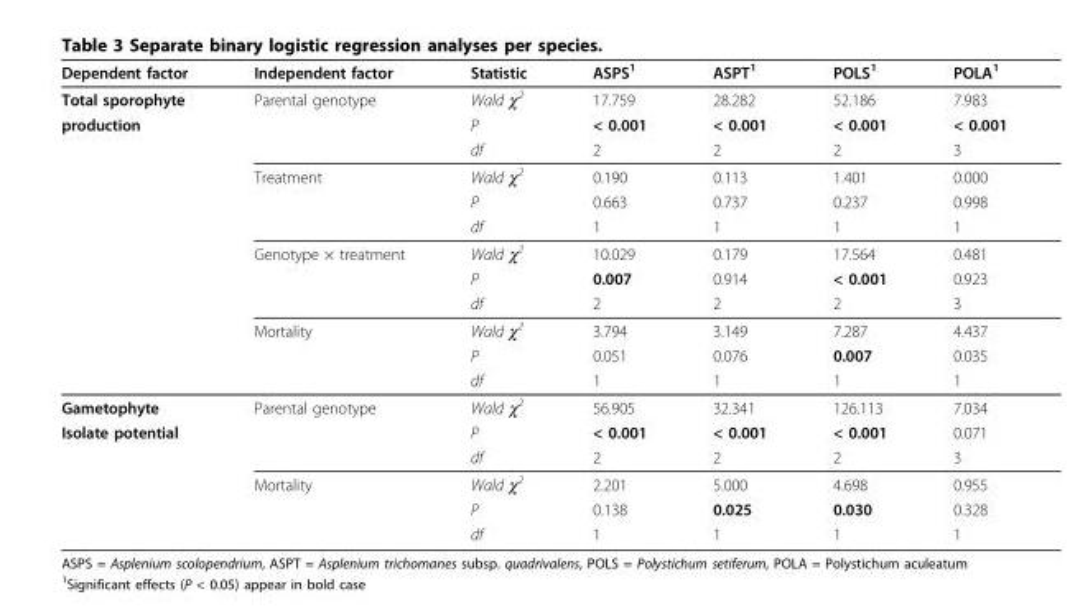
<table><thead><tr><td>Dependent factor</td><td>Independent factor</td><td>Statistic</td><td>ASPS<sup>1</sup></td><td>ASPT<sup>1</sup></td><td>POLS<sup>1</sup></td><td>POLA<sup>1</sup></td></tr></thead><tbody><tr><td>Total sporophyte</td><td>Parental genotype</td><td>Wald χ<sup>2</sup></td><td>17.759</td><td>28.282</td><td>52.186</td><td>7.983</td></tr><tr><td rowspan="11">production</td><td></td><td>P</td><td>&lt; 0.001</td><td>&lt; 0.001</td><td>&lt; 0.001</td><td>&lt; 0.001</td></tr><tr><td></td><td>df</td><td>2</td><td>2</td><td>2</td><td>3</td></tr><tr><td>Treatment</td><td>Wald χ<sup>2</sup></td><td>0.190</td><td>0.113</td><td>1.401</td><td>0.000</td></tr><tr><td></td><td>P</td><td>0.663</td><td>0.737</td><td>0.237</td><td>0.998</td></tr><tr><td></td><td>df</td><td>1</td><td>1</td><td>1</td><td>1</td></tr><tr><td>Genotype × treatment</td><td>Wald χ<sup>2</sup></td><td>10.029</td><td>0.179</td><td>17.564</td><td>0.481</td></tr><tr><td></td><td>P</td><td>0.007</td><td>0.914</td><td>&lt; 0.001</td><td>0.923</td></tr><tr><td></td><td>df</td><td>2</td><td>2</td><td>2</td><td>3</td></tr><tr><td>Mortality</td><td>Wald χ<sup>2</sup></td><td>3.794</td><td>3.149</td><td>7.287</td><td>4.437</td></tr><tr><td></td><td>P</td><td>0.051</td><td>0.076</td><td>0.007</td><td>0.035</td></tr><tr><td></td><td>df</td><td>1</td><td>1</td><td>1</td><td>1</td></tr><tr><td>Gametophyte</td><td>Parental genotype</td><td>Wald χ<sup>2</sup></td><td>56.905</td><td>32.341</td><td>126.113</td><td>7.034</td></tr><tr><td rowspan="5">Isolate potential</td><td></td><td>P</td><td>&lt; 0.001</td><td>&lt; 0.001</td><td>&lt; 0.001</td><td>0.071</td></tr><tr><td></td><td>df</td><td>2</td><td>2</td><td>2</td><td>3</td></tr><tr><td>Mortality</td><td>Wald χ<sup>2</sup></td><td>2.201</td><td>5.000</td><td>4.698</td><td>0.955</td></tr><tr><td></td><td>P</td><td>0.138</td><td>0.025</td><td>0.030</td><td>0.328</td></tr><tr><td></td><td>df</td><td>1</td><td>1</td><td>1</td><td>1</td></tr></tbody></table>